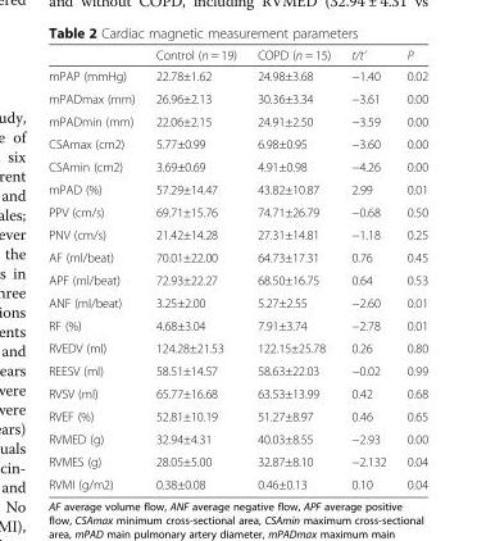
<table><thead><tr><td></td><td>Control (n = 19)</td><td>COPD (n = 15)</td><td>t/t’</td><td>P</td></tr></thead><tbody><tr><td>mPAP (mmHg)</td><td>22.78±1.62</td><td>24.98±3.68</td><td>−1.40</td><td>0.02</td></tr><tr><td>mPADmax (mm)</td><td>26.96±2.13</td><td>30.36±3.34</td><td>−3.61</td><td>0.00</td></tr><tr><td>mPADmin (mm)</td><td>22.06±2.15</td><td>24.91±2.50</td><td>−3.59</td><td>0.00</td></tr><tr><td>CSAmax (cm2)</td><td>5.77±0.99</td><td>6.98±0.95</td><td>−3.60</td><td>0.00</td></tr><tr><td>CSAmin (cm2)</td><td>3.69±0.69</td><td>4.91±0.98</td><td>−4.26</td><td>0.00</td></tr><tr><td>mPAD (%)</td><td>57.29±14.47</td><td>43.82±10.87</td><td>2.99</td><td>0.01</td></tr><tr><td>PPV (cm/s)</td><td>69.71±15.76</td><td>74.71±26.79</td><td>−0.68</td><td>0.50</td></tr><tr><td>PNV (cm/s)</td><td>21.42±14.28</td><td>27.31±14.81</td><td>−1.18</td><td>0.25</td></tr><tr><td>AF (ml/beat)</td><td>70.01±22.00</td><td>64.73±17.31</td><td>0.76</td><td>0.45</td></tr><tr><td>APF (ml/beat)</td><td>72.93±22.27</td><td>68.50±16.75</td><td>0.64</td><td>0.53</td></tr><tr><td>ANF (ml/beat)</td><td>3.25±2.00</td><td>5.27±2.55</td><td>−2.60</td><td>0.01</td></tr><tr><td>RF (%)</td><td>4.68±3.04</td><td>7.91±3.74</td><td>−2.78</td><td>0.01</td></tr><tr><td>RVEDV (ml)</td><td>124.28±21.53</td><td>122.15±25.78</td><td>0.26</td><td>0.80</td></tr><tr><td>REESV (ml)</td><td>58.51±14.57</td><td>58.63±22.03</td><td>−0.02</td><td>0.99</td></tr><tr><td>RVSV (ml)</td><td>65.77±16.68</td><td>63.53±13.99</td><td>0.42</td><td>0.68</td></tr><tr><td>RVEF (%)</td><td>52.81±10.19</td><td>51.27±8.97</td><td>0.46</td><td>0.65</td></tr><tr><td>RVMED (g)</td><td>32.94±4.31</td><td>40.03±8.55</td><td>−2.93</td><td>0.00</td></tr><tr><td>RVMES (g)</td><td>28.05±5.00</td><td>32.87±8.10</td><td>−2.132</td><td>0.04</td></tr><tr><td>RVMI (g/m2)</td><td>0.38±0.08</td><td>0.46±0.13</td><td>0.10</td><td>0.04</td></tr></tbody></table>